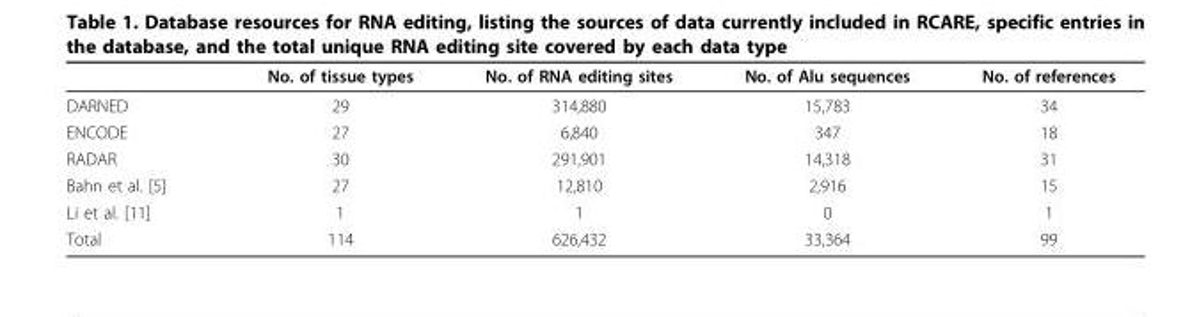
<table><thead><tr><td></td><td>No. of tissue types</td><td>No. of RNA editing sites</td><td>No. of Alu sequences</td><td>No. of references</td></tr></thead><tbody><tr><td>DARNED</td><td>29</td><td>314,880</td><td>15,783</td><td>34</td></tr><tr><td>ENCODE</td><td>27</td><td>6,840</td><td>347</td><td>18</td></tr><tr><td>RADAR</td><td>30</td><td>291,901</td><td>14,318</td><td>31</td></tr><tr><td>Bahn et al. [5]</td><td>27</td><td>12,810</td><td>2,916</td><td>15</td></tr><tr><td>Li et al. [11]</td><td>1</td><td>1</td><td>0</td><td>1</td></tr><tr><td>Total</td><td>114</td><td>626,432</td><td>33,364</td><td>99</td></tr></tbody></table>